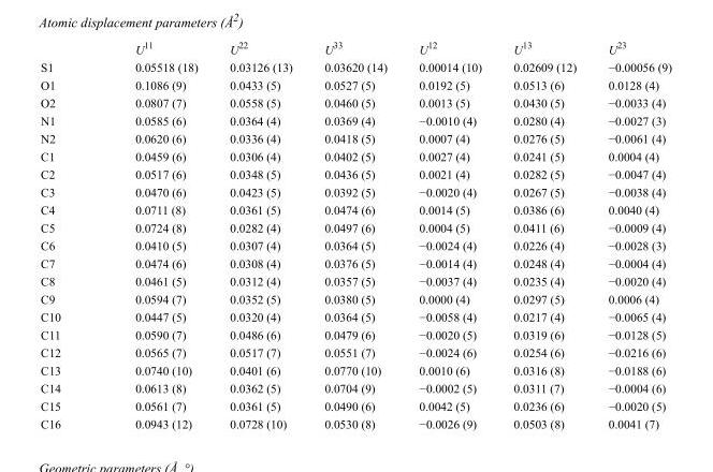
<table><thead><tr><td></td><td>U<sup>11</sup></td><td>U<sup>22</sup></td><td>U<sup>33</sup></td><td>U<sup>12</sup></td><td>U<sup>13</sup></td><td>U<sup>23</sup></td></tr></thead><tbody><tr><td>S1</td><td>0.05518 (18)</td><td>0.03126 (13)</td><td>0.03620 (14)</td><td>0.00014 (10)</td><td>0.02609 (12)</td><td>−0.00056 (9)</td></tr><tr><td>O1</td><td>0.1086 (9)</td><td>0.0433 (5)</td><td>0.0527 (5)</td><td>0.0192 (5)</td><td>0.0513 (6)</td><td>0.0128 (4)</td></tr><tr><td>O2</td><td>0.0807 (7)</td><td>0.0558 (5)</td><td>0.0460 (5)</td><td>0.0013 (5)</td><td>0.0430 (5)</td><td>−0.0033 (4)</td></tr><tr><td>N1</td><td>0.0585 (6)</td><td>0.0364 (4)</td><td>0.0369 (4)</td><td>−0.0010 (4)</td><td>0.0280 (4)</td><td>−0.0027 (3)</td></tr><tr><td>N2</td><td>0.0620 (6)</td><td>0.0336 (4)</td><td>0.0418 (5)</td><td>0.0007 (4)</td><td>0.0276 (5)</td><td>−0.0061 (4)</td></tr><tr><td>C1</td><td>0.0459 (6)</td><td>0.0306 (4)</td><td>0.0402 (5)</td><td>0.0027 (4)</td><td>0.0241 (5)</td><td>0.0004 (4)</td></tr><tr><td>C2</td><td>0.0517 (6)</td><td>0.0348 (5)</td><td>0.0436 (5)</td><td>0.0021 (4)</td><td>0.0282 (5)</td><td>−0.0047 (4)</td></tr><tr><td>C3</td><td>0.0470 (6)</td><td>0.0423 (5)</td><td>0.0392 (5)</td><td>−0.0020 (4)</td><td>0.0267 (5)</td><td>−0.0038 (4)</td></tr><tr><td>C4</td><td>0.0711 (8)</td><td>0.0361 (5)</td><td>0.0474 (6)</td><td>0.0014 (5)</td><td>0.0386 (6)</td><td>0.0040 (4)</td></tr><tr><td>C5</td><td>0.0724 (8)</td><td>0.0282 (4)</td><td>0.0497 (6)</td><td>0.0004 (5)</td><td>0.0411 (6)</td><td>−0.0009 (4)</td></tr><tr><td>C6</td><td>0.0410 (5)</td><td>0.0307 (4)</td><td>0.0364 (5)</td><td>−0.0024 (4)</td><td>0.0226 (4)</td><td>−0.0028 (3)</td></tr><tr><td>C7</td><td>0.0474 (6)</td><td>0.0308 (4)</td><td>0.0376 (5)</td><td>−0.0014 (4)</td><td>0.0248 (4)</td><td>−0.0004 (4)</td></tr><tr><td>C8</td><td>0.0461 (5)</td><td>0.0312 (4)</td><td>0.0357 (5)</td><td>−0.0037 (4)</td><td>0.0235 (4)</td><td>−0.0020 (4)</td></tr><tr><td>C9</td><td>0.0594 (7)</td><td>0.0352 (5)</td><td>0.0380 (5)</td><td>0.0000 (4)</td><td>0.0297 (5)</td><td>0.0006 (4)</td></tr><tr><td>C10</td><td>0.0447 (5)</td><td>0.0320 (4)</td><td>0.0364 (5)</td><td>−0.0058 (4)</td><td>0.0217 (4)</td><td>−0.0065 (4)</td></tr><tr><td>C11</td><td>0.0590 (7)</td><td>0.0486 (6)</td><td>0.0479 (6)</td><td>−0.0020 (5)</td><td>0.0319 (6)</td><td>−0.0128 (5)</td></tr><tr><td>C12</td><td>0.0565 (7)</td><td>0.0517 (7)</td><td>0.0551 (7)</td><td>−0.0024 (6)</td><td>0.0254 (6)</td><td>−0.0216 (6)</td></tr><tr><td>C13</td><td>0.0740 (10)</td><td>0.0401 (6)</td><td>0.0770 (10)</td><td>0.0010 (6)</td><td>0.0316 (8)</td><td>−0.0188 (6)</td></tr><tr><td>C14</td><td>0.0613 (8)</td><td>0.0362 (5)</td><td>0.0704 (9)</td><td>−0.0002 (5)</td><td>0.0311 (7)</td><td>−0.0004 (6)</td></tr><tr><td>C15</td><td>0.0561 (7)</td><td>0.0361 (5)</td><td>0.0490 (6)</td><td>0.0042 (5)</td><td>0.0236 (6)</td><td>−0.0020 (5)</td></tr><tr><td>C16</td><td>0.0943 (12)</td><td>0.0728 (10)</td><td>0.0530 (8)</td><td>−0.0026 (9)</td><td>0.0503 (8)</td><td>0.0041 (7)</td></tr></tbody></table>